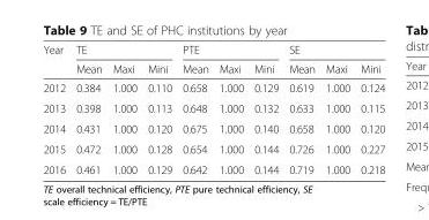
<table><thead><tr><td rowspan="2">Year</td><td colspan="3">TE</td><td colspan="3">PTE</td><td colspan="3">SE</td></tr><tr><td>Mean</td><td>Maxi</td><td>Mini</td><td>Mean</td><td>Maxi</td><td>Mini</td><td>Mean</td><td>Maxi</td><td>Mini</td></tr></thead><tbody><tr><td>2012</td><td>0.384</td><td>1.000</td><td>0.110</td><td>0.658</td><td>1.000</td><td>0.129</td><td>0.619</td><td>1.000</td><td>0.124</td></tr><tr><td>2013</td><td>0.398</td><td>1.000</td><td>0.113</td><td>0.648</td><td>1.000</td><td>0.132</td><td>0.633</td><td>1.000</td><td>0.115</td></tr><tr><td>2014</td><td>0.431</td><td>1.000</td><td>0.120</td><td>0.675</td><td>1.000</td><td>0.140</td><td>0.658</td><td>1.000</td><td>0.120</td></tr><tr><td>2015</td><td>0.472</td><td>1.000</td><td>0.128</td><td>0.654</td><td>1.000</td><td>0.144</td><td>0.726</td><td>1.000</td><td>0.227</td></tr><tr><td>2016</td><td>0.461</td><td>1.000</td><td>0.129</td><td>0.642</td><td>1.000</td><td>0.144</td><td>0.719</td><td>1.000</td><td>0.218</td></tr></tbody></table>